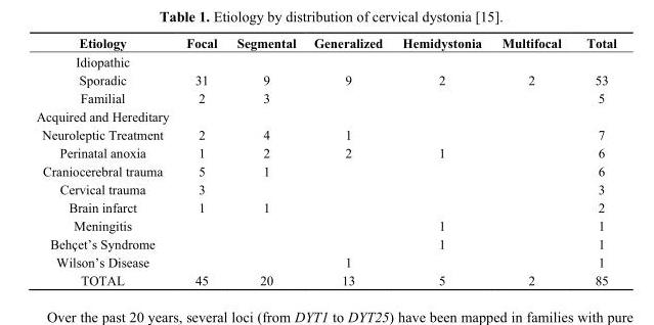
<table><thead><tr><td>Etiology</td><td>Focal</td><td>Segmental</td><td>Generalized</td><td>Hemidystonia</td><td>Multifocal</td><td>Total</td></tr></thead><tbody><tr><td colspan="7">Idiopathic</td></tr><tr><td>Sporadic</td><td>31</td><td>9</td><td>9</td><td>2</td><td>2</td><td>53</td></tr><tr><td>Familial</td><td>2</td><td>3</td><td></td><td></td><td></td><td>5</td></tr><tr><td colspan="7">Acquired and Hereditary</td></tr><tr><td>Neuroleptic Treatment</td><td>2</td><td>4</td><td>1</td><td></td><td></td><td>7</td></tr><tr><td>Perinatal anoxia</td><td>1</td><td>2</td><td>2</td><td>1</td><td></td><td>6</td></tr><tr><td>Craniocerebral trauma</td><td>5</td><td>1</td><td></td><td></td><td></td><td>6</td></tr><tr><td>Cervical trauma</td><td>3</td><td></td><td></td><td></td><td></td><td>3</td></tr><tr><td>Brain infarct</td><td>1</td><td>1</td><td></td><td></td><td></td><td>2</td></tr><tr><td>Meningitis</td><td></td><td></td><td></td><td>1</td><td></td><td>1</td></tr><tr><td>Behçet’s Syndrome</td><td></td><td></td><td></td><td>1</td><td></td><td>1</td></tr><tr><td>Wilson’s Disease</td><td></td><td></td><td>1</td><td></td><td></td><td>1</td></tr><tr><td>TOTAL</td><td>45</td><td>20</td><td>13</td><td>5</td><td>2</td><td>85</td></tr></tbody></table>